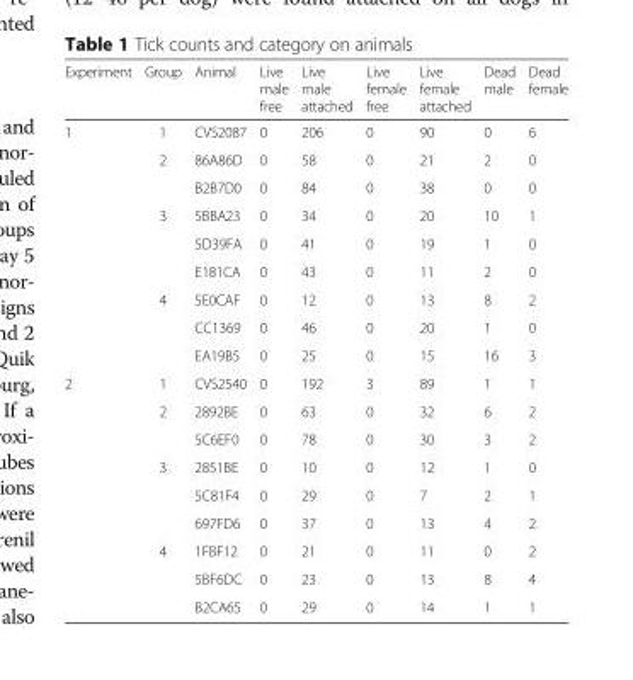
<table><thead><tr><td>Experiment</td><td>Group</td><td>Animal</td><td>Live male free</td><td>Live male attached</td><td>Live female free</td><td>Live female attached</td><td>Dead male</td><td>Dead female</td></tr></thead><tbody><tr><td rowspan="9">1</td><td>1</td><td>CVS2087</td><td>0</td><td>206</td><td>0</td><td>90</td><td>0</td><td>6</td></tr><tr><td>2</td><td>86A86D</td><td>0</td><td>58</td><td>0</td><td>21</td><td>2</td><td>0</td></tr><tr><td></td><td>B2B7D0</td><td>0</td><td>84</td><td>0</td><td>38</td><td>0</td><td>0</td></tr><tr><td>3</td><td>5BBA23</td><td>0</td><td>34</td><td>0</td><td>20</td><td>10</td><td>1</td></tr><tr><td></td><td>5D39FA</td><td>0</td><td>41</td><td>0</td><td>19</td><td>1</td><td>0</td></tr><tr><td></td><td>E181CA</td><td>0</td><td>43</td><td>0</td><td>11</td><td>2</td><td>0</td></tr><tr><td>4</td><td>5E0CAF</td><td>0</td><td>12</td><td>0</td><td>13</td><td>8</td><td>2</td></tr><tr><td></td><td>CC1369</td><td>0</td><td>46</td><td>0</td><td>20</td><td>1</td><td>0</td></tr><tr><td></td><td>EA19B5</td><td>0</td><td>25</td><td>0</td><td>15</td><td>16</td><td>3</td></tr><tr><td rowspan="9">2</td><td>1</td><td>CVS2540</td><td>0</td><td>192</td><td>3</td><td>89</td><td>1</td><td>1</td></tr><tr><td>2</td><td>2892BE</td><td>0</td><td>63</td><td>0</td><td>32</td><td>6</td><td>2</td></tr><tr><td></td><td>5C6EF0</td><td>0</td><td>78</td><td>0</td><td>30</td><td>3</td><td>2</td></tr><tr><td>3</td><td>2851BE</td><td>0</td><td>10</td><td>0</td><td>12</td><td>1</td><td>0</td></tr><tr><td></td><td>5C81F4</td><td>0</td><td>29</td><td>0</td><td>7</td><td>2</td><td>1</td></tr><tr><td></td><td>697FD6</td><td>0</td><td>37</td><td>0</td><td>13</td><td>4</td><td>2</td></tr><tr><td>4</td><td>1FBF12</td><td>0</td><td>21</td><td>0</td><td>11</td><td>0</td><td>2</td></tr><tr><td></td><td>5BF6DC</td><td>0</td><td>23</td><td>0</td><td>13</td><td>8</td><td>4</td></tr><tr><td></td><td>B2CA65</td><td>0</td><td>29</td><td>0</td><td>14</td><td>1</td><td>1</td></tr></tbody></table>